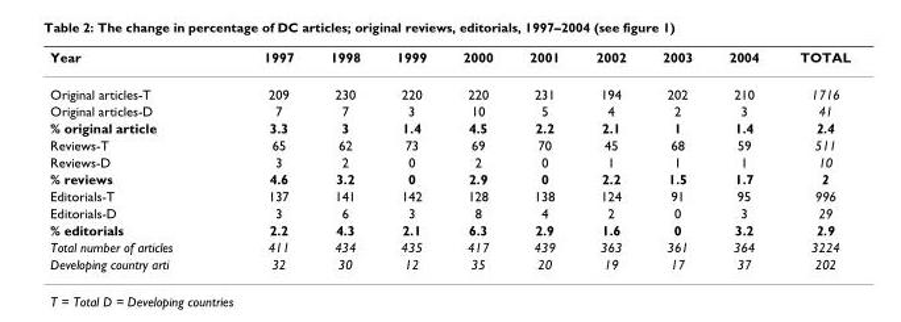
<table><thead><tr><td>Year</td><td>1997</td><td>1998</td><td>1999</td><td>2000</td><td>2001</td><td>2002</td><td>2003</td><td>2004</td><td>TOTAL</td></tr></thead><tbody><tr><td>Original articles-T</td><td>209</td><td>230</td><td>220</td><td>220</td><td>231</td><td>194</td><td>202</td><td>210</td><td>1716</td></tr><tr><td>Original articles-D</td><td>7</td><td>7</td><td>3</td><td>10</td><td>5</td><td>4</td><td>2</td><td>3</td><td>41</td></tr><tr><td>% original article</td><td>3.3</td><td>3</td><td>1.4</td><td>4.5</td><td>2.2</td><td>2.1</td><td>1</td><td>1.4</td><td>2.4</td></tr><tr><td>Reviews-T</td><td>65</td><td>62</td><td>73</td><td>69</td><td>70</td><td>45</td><td>68</td><td>59</td><td>511</td></tr><tr><td>Reviews-D</td><td>3</td><td>2</td><td>0</td><td>2</td><td>0</td><td>1</td><td>1</td><td>1</td><td>10</td></tr><tr><td>% reviews</td><td>4.6</td><td>3.2</td><td>0</td><td>2.9</td><td>0</td><td>2.2</td><td>1.5</td><td>1.7</td><td>2</td></tr><tr><td>Editorials-T</td><td>137</td><td>141</td><td>142</td><td>128</td><td>138</td><td>124</td><td>91</td><td>95</td><td>996</td></tr><tr><td>Editorials-D</td><td>3</td><td>6</td><td>3</td><td>8</td><td>4</td><td>2</td><td>0</td><td>3</td><td>29</td></tr><tr><td>% editorials</td><td>2.2</td><td>4.3</td><td>2.1</td><td>6.3</td><td>2.9</td><td>1.6</td><td>0</td><td>3.2</td><td>2.9</td></tr><tr><td>Total number of articles</td><td>411</td><td>434</td><td>435</td><td>417</td><td>439</td><td>363</td><td>361</td><td>364</td><td>3224</td></tr><tr><td>Developing country arti</td><td>32</td><td>30</td><td>12</td><td>35</td><td>20</td><td>19</td><td>17</td><td>37</td><td>202</td></tr></tbody></table>